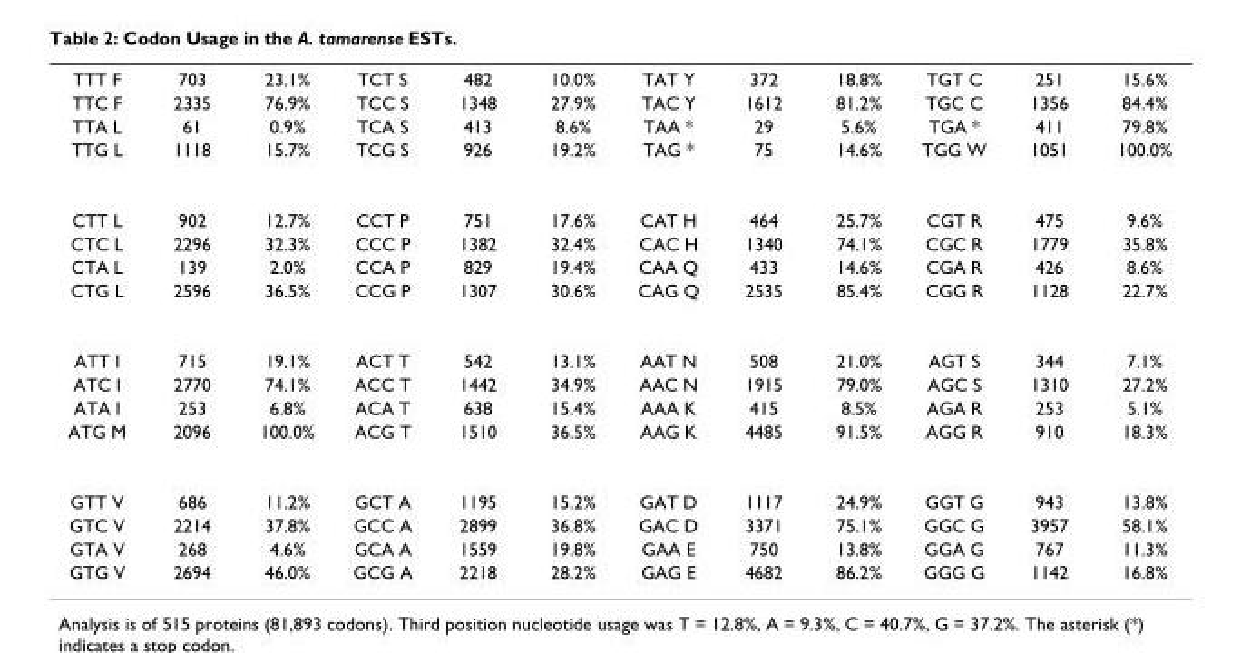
<table><tbody><tr><td>TTT F</td><td>703</td><td>23.1%</td><td>TCT S</td><td>482</td><td>10.0%</td><td>TAT Y</td><td>372</td><td>18.8%</td><td>TGT C</td><td>251</td><td>15.6%</td></tr><tr><td>TTC F</td><td>2335</td><td>76.9%</td><td>TCC S</td><td>1348</td><td>27.9%</td><td>TAC Y</td><td>1612</td><td>81.2%</td><td>TGC C</td><td>1356</td><td>84.4%</td></tr><tr><td>TTA L</td><td>61</td><td>0.9%</td><td>TCA S</td><td>413</td><td>8.6%</td><td>TAA *</td><td>29</td><td>5.6%</td><td>TGA *</td><td>411</td><td>79.8%</td></tr><tr><td>TTG L</td><td>1118</td><td>15.7%</td><td>TCG S</td><td>926</td><td>19.2%</td><td>TAG *</td><td>75</td><td>14.6%</td><td>TGG W</td><td>1051</td><td>100.0%</td></tr><tr><td>CTT L</td><td>902</td><td>12.7%</td><td>CCT P</td><td>751</td><td>17.6%</td><td>CAT H</td><td>464</td><td>25.7%</td><td>CGT R</td><td>475</td><td>9.6%</td></tr><tr><td>CTC L</td><td>2296</td><td>32.3%</td><td>CCC P</td><td>1382</td><td>32.4%</td><td>CAC H</td><td>1340</td><td>74.1%</td><td>CGC R</td><td>1779</td><td>35.8%</td></tr><tr><td>CTA L</td><td>139</td><td>2.0%</td><td>CCA P</td><td>829</td><td>19.4%</td><td>CAA Q</td><td>433</td><td>14.6%</td><td>CGA R</td><td>426</td><td>8.6%</td></tr><tr><td>CTG L</td><td>2596</td><td>36.5%</td><td>CCG P</td><td>1307</td><td>30.6%</td><td>CAG Q</td><td>2535</td><td>85.4%</td><td>CGG R</td><td>1128</td><td>22.7%</td></tr><tr><td>ATT I</td><td>715</td><td>19.1%</td><td>ACT T</td><td>542</td><td>13.1%</td><td>AAT N</td><td>508</td><td>21.0%</td><td>AGT S</td><td>344</td><td>7.1%</td></tr><tr><td>ATC I</td><td>2770</td><td>74.1%</td><td>ACC T</td><td>1442</td><td>34.9%</td><td>AAC N</td><td>1915</td><td>79.0%</td><td>AGC S</td><td>1310</td><td>27.2%</td></tr><tr><td>ATA I</td><td>253</td><td>6.8%</td><td>ACA T</td><td>638</td><td>15.4%</td><td>AAA K</td><td>415</td><td>8.5%</td><td>AGA R</td><td>253</td><td>5.1%</td></tr><tr><td>ATG M</td><td>2096</td><td>100.0%</td><td>ACG T</td><td>1510</td><td>36.5%</td><td>AAG K</td><td>4485</td><td>91.5%</td><td>AGG R</td><td>910</td><td>18.3%</td></tr><tr><td>GTT V</td><td>686</td><td>11.2%</td><td>GCT A</td><td>1195</td><td>15.2%</td><td>GAT D</td><td>1117</td><td>24.9%</td><td>GGT G</td><td>943</td><td>13.8%</td></tr><tr><td>GTC V</td><td>2214</td><td>37.8%</td><td>GCC A</td><td>2899</td><td>36.8%</td><td>GAC D</td><td>3371</td><td>75.1%</td><td>GGC G</td><td>3957</td><td>58.1%</td></tr><tr><td>GTA V</td><td>268</td><td>4.6%</td><td>GCA A</td><td>1559</td><td>19.8%</td><td>GAA E</td><td>750</td><td>13.8%</td><td>GGA G</td><td>767</td><td>11.3%</td></tr><tr><td>GTG V</td><td>2694</td><td>46.0%</td><td>GCG A</td><td>2218</td><td>28.2%</td><td>GAG E</td><td>4682</td><td>86.2%</td><td>GGG G</td><td>1142</td><td>16.8%</td></tr></tbody></table>